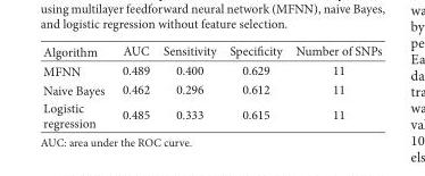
<table><thead><tr><td>Algorithm</td><td>AUC</td><td>Sensitivity</td><td>Speci�city</td><td>Number of SNPs</td></tr></thead><tbody><tr><td>MFNN</td><td>0.489</td><td>0.400</td><td>0.629</td><td>11</td></tr><tr><td>Naive Bayes</td><td>0.462</td><td>0.296</td><td>0.612</td><td>11</td></tr><tr><td>Logistic regression</td><td>0.485</td><td>0.333</td><td>0.615</td><td>11</td></tr></tbody></table>